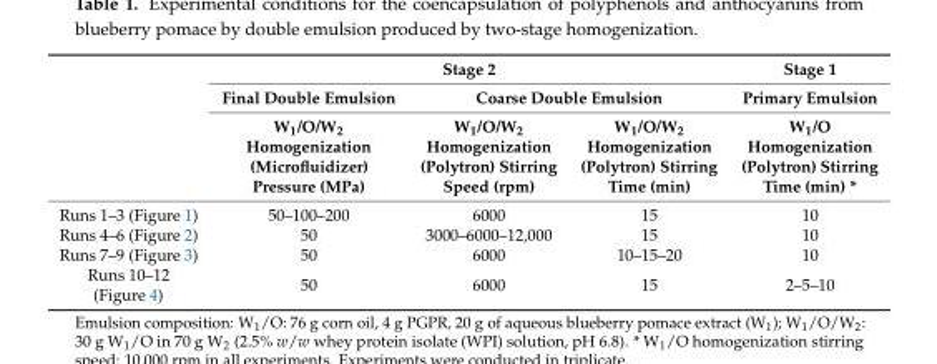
<table><thead><tr><td rowspan="3"></td><td colspan="3">Stage 2</td><td rowspan="3">Stage 1 Primary Emulsion W<sub>1</sub>/O Homogenization (Polytron) Stirring Time (min) *</td></tr><tr><td rowspan="2">Final Double Emulsion W<sub>1</sub>/O/W<sub>2</sub> Homogenization (Microfluidizer) Pressure (MPa)</td><td colspan="2">Coarse Double Emulsion</td></tr><tr><td>W<sub>1</sub>/O/W<sub>2</sub> Homogenization (Polytron) Stirring Speed (rpm)</td><td>W<sub>1</sub>/O/W<sub>2</sub> Homogenization (Polytron) Stirring Time (min)</td></tr></thead><tbody><tr><td>Runs 1–3 (Figure 1)</td><td>50–100–200</td><td>6000</td><td>15</td><td>10</td></tr><tr><td>Runs 4–6 (Figure 2)</td><td>50</td><td>3000–6000–12,000</td><td>15</td><td>10</td></tr><tr><td>Runs 7–9 (Figure 3)</td><td>50</td><td>6000</td><td>10–15–20</td><td>10</td></tr><tr><td>Runs 10–12 (Figure 4)</td><td>50</td><td>6000</td><td>15</td><td>2–5–10</td></tr></tbody></table>